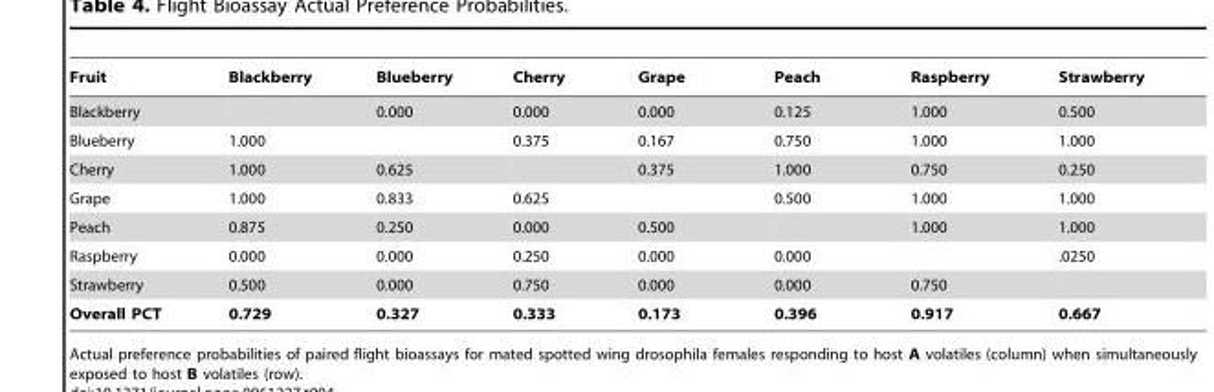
<table><thead><tr><td>Fruit</td><td>Blackberry</td><td>Blueberry</td><td>Cherry</td><td>Grape</td><td>Peach</td><td>Raspberry</td><td>Strawberry</td></tr></thead><tbody><tr><td>Blackberry</td><td></td><td>0.000</td><td>0.000</td><td>0.000</td><td>0.125</td><td>1.000</td><td>0.500</td></tr><tr><td>Blueberry</td><td>1.000</td><td></td><td>0.375</td><td>0.167</td><td>0.750</td><td>1.000</td><td>1.000</td></tr><tr><td>Cherry</td><td>1.000</td><td>0.625</td><td></td><td>0.375</td><td>1.000</td><td>0.750</td><td>0.250</td></tr><tr><td>Grape</td><td>1.000</td><td>0.833</td><td>0.625</td><td></td><td>0.500</td><td>1.000</td><td>1.000</td></tr><tr><td>Peach</td><td>0.875</td><td>0.250</td><td>0.000</td><td>0.500</td><td></td><td>1.000</td><td>1.000</td></tr><tr><td>Raspberry</td><td>0.000</td><td>0.000</td><td>0.250</td><td>0.000</td><td>0.000</td><td></td><td>.0250</td></tr><tr><td>Strawberry</td><td>0.500</td><td>0.000</td><td>0.750</td><td>0.000</td><td>0.000</td><td>0.750</td><td></td></tr><tr><td>Overall PCT</td><td>0.729</td><td>0.327</td><td>0.333</td><td>0.173</td><td>0.396</td><td>0.917</td><td>0.667</td></tr></tbody></table>